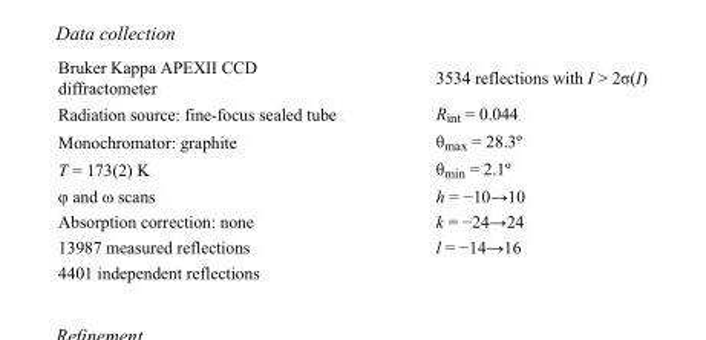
<table><tbody><tr><td>Bruker Kappa APEXII CCD diffractometer</td><td>3534 reflections with I &gt; 2σ(I)</td></tr><tr><td>Radiation source: fine-focus sealed tube</td><td>R<sub>int</sub> = 0.044</td></tr><tr><td>Monochromator: graphite</td><td>θ<sub>max</sub> = 28.3º</td></tr><tr><td>T = 173(2) K</td><td>θ<sub>min</sub> = 2.1º</td></tr><tr><td>φ and ω scans</td><td>h = −10→10</td></tr><tr><td>Absorption correction: none</td><td>k = −24→24</td></tr><tr><td>13987 measured reflections</td><td>l = −14→16</td></tr><tr><td>4401 independent reflections</td><td></td></tr></tbody></table>